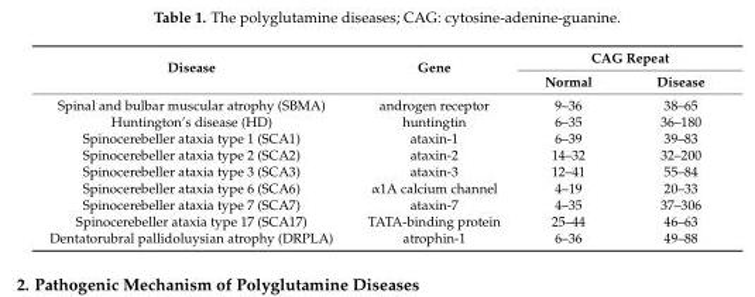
<table><thead><tr><td rowspan="2">Disease</td><td rowspan="2">Gene</td><td colspan="2">CAG Repeat</td></tr><tr><td>Normal</td><td>Disease</td></tr></thead><tbody><tr><td>Spinal and bulbar muscular atrophy (SBMA)</td><td>androgen receptor</td><td>9–36</td><td>38–65</td></tr><tr><td>Huntington’s disease (HD)</td><td>huntingtin</td><td>6–35</td><td>36–180</td></tr><tr><td>Spinocerebeller ataxia type 1 (SCA1)</td><td>ataxin-1</td><td>6–39</td><td>39–83</td></tr><tr><td>Spinocerebeller ataxia type 2 (SCA2)</td><td>ataxin-2</td><td>14–32</td><td>32–200</td></tr><tr><td>Spinocerebeller ataxia type 3 (SCA3)</td><td>ataxin-3</td><td>12–41</td><td>55–84</td></tr><tr><td>Spinocerebeller ataxia type 6 (SCA6)</td><td>α1A calcium channel</td><td>4–19</td><td>20–33</td></tr><tr><td>Spinocerebeller ataxia type 7 (SCA7)</td><td>ataxin-7</td><td>4–35</td><td>37–306</td></tr><tr><td>Spinocerebeller ataxia type 17 (SCA17)</td><td>TATA-binding protein</td><td>25–44</td><td>46–63</td></tr><tr><td>Dentatorubral pallidoluysian atrophy (DRPLA)</td><td>atrophin-1</td><td>6–36</td><td>49–88</td></tr></tbody></table>